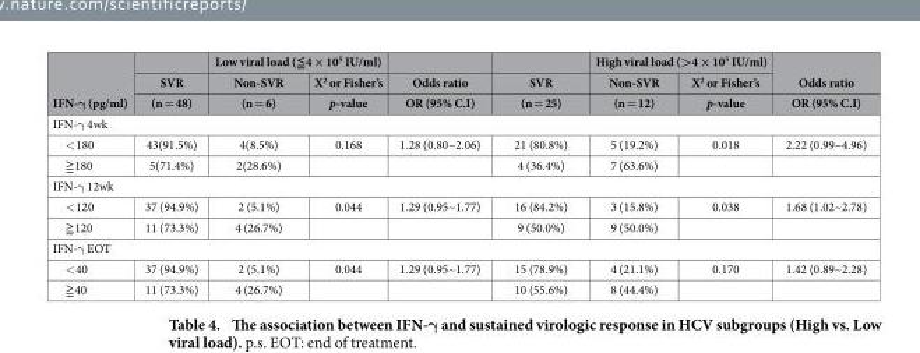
<table><thead><tr><td rowspan="3">IFN-γ (pg/ml)</td><td rowspan="3">SVR (n = 48)</td><td colspan="2">Low viral load (≦4 × 10<sup>5</sup> IU/ml)</td><td rowspan="3">Odds ratio OR (95% C.I)</td><td rowspan="3">SVR (n = 25)</td><td colspan="2">High viral load (&gt;4 × 105 IU/ml)</td><td rowspan="3">Odds ratio OR (95% C.I)</td></tr><tr><td rowspan="2">Non-SVR (n = 6)</td><td rowspan="2">X<sup>2</sup> or Fisher’s p-value</td><td rowspan="2">Non-SVR (n = 12)</td><td rowspan="2">X<sup>2</sup> or Fisher’s p-value</td></tr><tr></tr></thead><tbody><tr><td colspan="9">IFN-γ 4wk</td></tr><tr><td>&lt; 180</td><td>43(91.5%)</td><td>4(8.5%)</td><td>0.168</td><td>1.28 (0.80~2.06)</td><td>21 (80.8%)</td><td>5 (19.2%)</td><td>0.018</td><td>2.22 (0.99~4.96)</td></tr><tr><td>≧ 180</td><td>5(71.4%)</td><td>2(28.6%)</td><td></td><td></td><td>4 (36.4%)</td><td>7 (63.6%)</td><td></td><td></td></tr><tr><td colspan="9">IFN-γ 12wk</td></tr><tr><td>&lt; 120</td><td>37 (94.9%)</td><td>2 (5.1%)</td><td>0.044</td><td>1.29 (0.95~1.77)</td><td>16 (84.2%)</td><td>3 (15.8%)</td><td>0.038</td><td>1.68 (1.02~2.78)</td></tr><tr><td>≧ 120</td><td>11 (73.3%)</td><td>4 (26.7%)</td><td></td><td></td><td>9 (50.0%)</td><td>9 (50.0%)</td><td></td><td></td></tr><tr><td colspan="9">IFN-γ EOT</td></tr><tr><td>&lt; 40</td><td>37 (94.9%)</td><td>2 (5.1%)</td><td>0.044</td><td>1.29 (0.95~1.77)</td><td>15 (78.9%)</td><td>4 (21.1%)</td><td>0.170</td><td>1.42 (0.89~2.28)</td></tr><tr><td>≧ 40</td><td>11 (73.3%)</td><td>4 (26.7%)</td><td></td><td></td><td>10 (55.6%)</td><td>8 (44.4%)</td><td></td><td></td></tr></tbody></table>